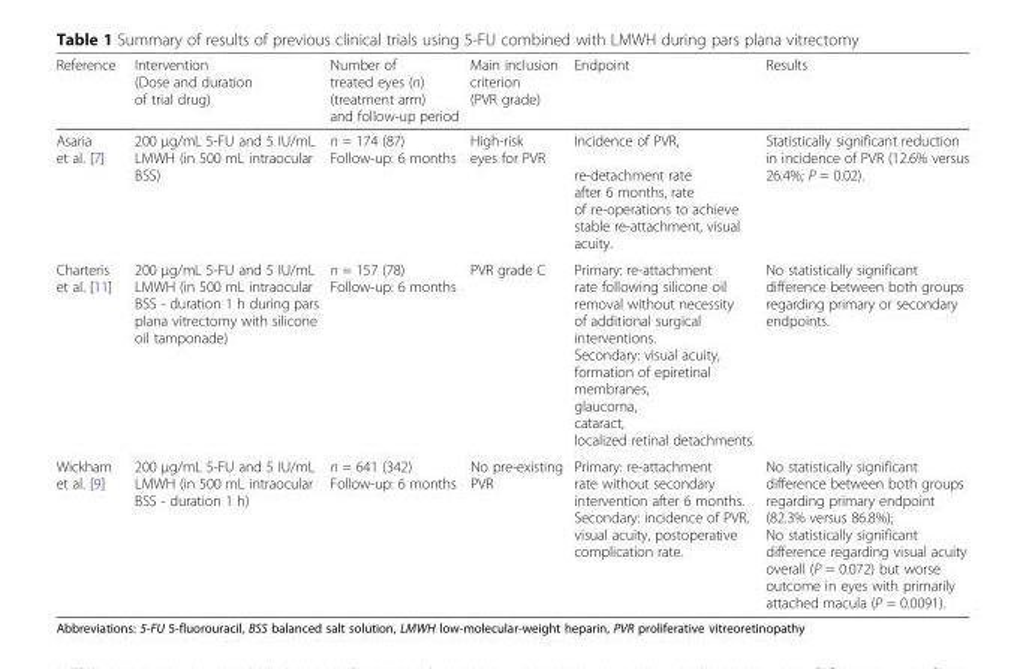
<table><thead><tr><td>Reference</td><td>Intervention (Dose and duration of trial drug)</td><td>Number of treated eyes (n) (treatment arm) and follow-up period</td><td>Main inclusion criterion (PVR grade)</td><td>Endpoint</td><td>Results</td></tr></thead><tbody><tr><td>Asaria et al. [7]</td><td>200 μg/mL 5-FU and 5 IU/mL LMWH (in 500 mL intraocular BSS)</td><td>n = 174 (87) Follow-up: 6 months</td><td>High-risk eyes for PVR</td><td>Incidence of PVR, re-detachment rate after 6 months, rate of re-operations to achieve stable re-attachment, visual acuity.</td><td>Statistically significant reduction in incidence of PVR (12.6% versus 26.4%; P = 0.02).</td></tr><tr><td>Charteris et al. [11]</td><td>200 μg/mL 5-FU and 5 IU/mL LMWH (in 500 mL intraocular BSS - duration 1 h during pars plana vitrectomy with silicone oil tamponade)</td><td>n = 157 (78) Follow-up: 6 months</td><td>PVR grade C</td><td>Primary: re-attachment rate following silicone oil removal without necessity of additional surgical interventions. Secondary: visual acuity, formation of epiretinal membranes, glaucoma, cataract, localized retinal detachments.</td><td>No statistically significant difference between both groups regarding primary or secondary endpoints.</td></tr><tr><td>Wickham et al. [9]</td><td>200 μg/mL 5-FU and 5 IU/mL LMWH (in 500 mL intraocular BSS - duration 1 h)</td><td>n = 641 (342) Follow-up: 6 months</td><td>No pre-existing PVR</td><td>Primary: re-attachment rate without secondary intervention after 6 months. Secondary: incidence of PVR, visual acuity, postoperative complication rate.</td><td>No statistically significant difference between both groups regarding primary endpoint (82.3% versus 86.8%); No statistically significant difference regarding visual acuity overall (P = 0.072) but worse outcome in eyes with primarily attached macula (P = 0.0091).</td></tr></tbody></table>